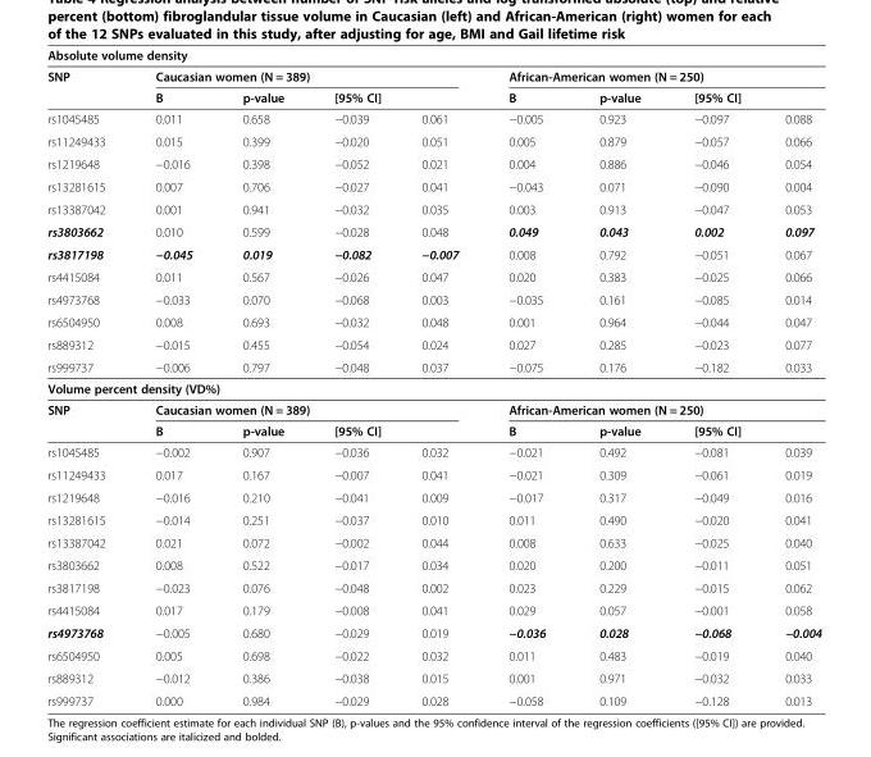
<table><thead><tr><td colspan="9">Absolute volume density</td></tr><tr><td rowspan="3">SNP rs1045485</td><td colspan="4">Caucasian women (N = 389)</td><td colspan="4">African-American women (N = 250)</td></tr><tr><td rowspan="2">B 0.011</td><td rowspan="2">p-value 0.658</td><td colspan="2">[95% CI]</td><td rowspan="2">B −0.005</td><td rowspan="2">p-value 0.923</td><td colspan="2">[95% CI]</td></tr><tr><td>−0.039</td><td>0.061</td><td>−0.097</td><td>0.088</td></tr></thead><tbody><tr><td>rs11249433</td><td>0.015</td><td>0.399</td><td>−0.020</td><td>0.051</td><td>0.005</td><td>0.879</td><td>−0.057</td><td>0.066</td></tr><tr><td>rs1219648</td><td>−0.016</td><td>0.398</td><td>−0.052</td><td>0.021</td><td>0.004</td><td>0.886</td><td>−0.046</td><td>0.054</td></tr><tr><td>rs13281615</td><td>0.007</td><td>0.706</td><td>−0.027</td><td>0.041</td><td>−0.043</td><td>0.071</td><td>−0.090</td><td>0.004</td></tr><tr><td>rs13387042</td><td>0.001</td><td>0.941</td><td>−0.032</td><td>0.035</td><td>0.003</td><td>0.913</td><td>−0.047</td><td>0.053</td></tr><tr><td>rs3803662</td><td>0.010</td><td>0.599</td><td>−0.028</td><td>0.048</td><td>0.049</td><td>0.043</td><td>0.002</td><td>0.097</td></tr><tr><td>rs3817198</td><td>−0.045</td><td>0.019</td><td>−0.082</td><td>−0.007</td><td>0.008</td><td>0.792</td><td>−0.051</td><td>0.067</td></tr><tr><td>rs4415084</td><td>0.011</td><td>0.567</td><td>−0.026</td><td>0.047</td><td>0.020</td><td>0.383</td><td>−0.025</td><td>0.066</td></tr><tr><td>rs4973768</td><td>−0.033</td><td>0.070</td><td>−0.068</td><td>0.003</td><td>−0.035</td><td>0.161</td><td>−0.085</td><td>0.014</td></tr><tr><td>rs6504950</td><td>0.008</td><td>0.693</td><td>−0.032</td><td>0.048</td><td>0.001</td><td>0.964</td><td>−0.044</td><td>0.047</td></tr><tr><td>rs889312</td><td>−0.015</td><td>0.455</td><td>−0.054</td><td>0.024</td><td>0.027</td><td>0.285</td><td>−0.023</td><td>0.077</td></tr><tr><td>rs999737</td><td>−0.006</td><td>0.797</td><td>−0.048</td><td>0.037</td><td>−0.075</td><td>0.176</td><td>−0.182</td><td>0.033</td></tr><tr><td colspan="9">Volume percent density (VD%)</td></tr><tr><td rowspan="2">SNP</td><td colspan="4">Caucasian women (N = 389)</td><td colspan="4">African-American women (N = 250)</td></tr><tr><td>B</td><td>p-value</td><td colspan="2">[95% CI]</td><td>B</td><td>p-value</td><td colspan="2">[95% CI]</td></tr><tr><td>rs1045485</td><td>−0.002</td><td>0.907</td><td>−0.036</td><td>0.032</td><td>−0.021</td><td>0.492</td><td>−0.081</td><td>0.039</td></tr><tr><td>rs11249433</td><td>0.017</td><td>0.167</td><td>−0.007</td><td>0.041</td><td>−0.021</td><td>0.309</td><td>−0.061</td><td>0.019</td></tr><tr><td>rs1219648</td><td>−0.016</td><td>0.210</td><td>−0.041</td><td>0.009</td><td>−0.017</td><td>0.317</td><td>−0.049</td><td>0.016</td></tr><tr><td>rs13281615</td><td>−0.014</td><td>0.251</td><td>−0.037</td><td>0.010</td><td>0.011</td><td>0.490</td><td>−0.020</td><td>0.041</td></tr><tr><td>rs13387042</td><td>0.021</td><td>0.072</td><td>−0.002</td><td>0.044</td><td>0.008</td><td>0.633</td><td>−0.025</td><td>0.040</td></tr><tr><td>rs3803662</td><td>0.008</td><td>0.522</td><td>−0.017</td><td>0.034</td><td>0.020</td><td>0.200</td><td>−0.011</td><td>0.051</td></tr><tr><td>rs3817198</td><td>−0.023</td><td>0.076</td><td>−0.048</td><td>0.002</td><td>0.023</td><td>0.229</td><td>−0.015</td><td>0.062</td></tr><tr><td>rs4415084</td><td>0.017</td><td>0.179</td><td>−0.008</td><td>0.041</td><td>0.029</td><td>0.057</td><td>−0.001</td><td>0.058</td></tr><tr><td>rs4973768</td><td>−0.005</td><td>0.680</td><td>−0.029</td><td>0.019</td><td>−0.036</td><td>0.028</td><td>−0.068</td><td>−0.004</td></tr><tr><td>rs6504950</td><td>0.005</td><td>0.698</td><td>−0.022</td><td>0.032</td><td>0.011</td><td>0.483</td><td>−0.019</td><td>0.040</td></tr><tr><td>rs889312</td><td>−0.012</td><td>0.386</td><td>−0.038</td><td>0.015</td><td>0.001</td><td>0.971</td><td>−0.032</td><td>0.033</td></tr><tr><td>rs999737</td><td>0.000</td><td>0.984</td><td>−0.029</td><td>0.028</td><td>−0.058</td><td>0.109</td><td>−0.128</td><td>0.013</td></tr></tbody></table>